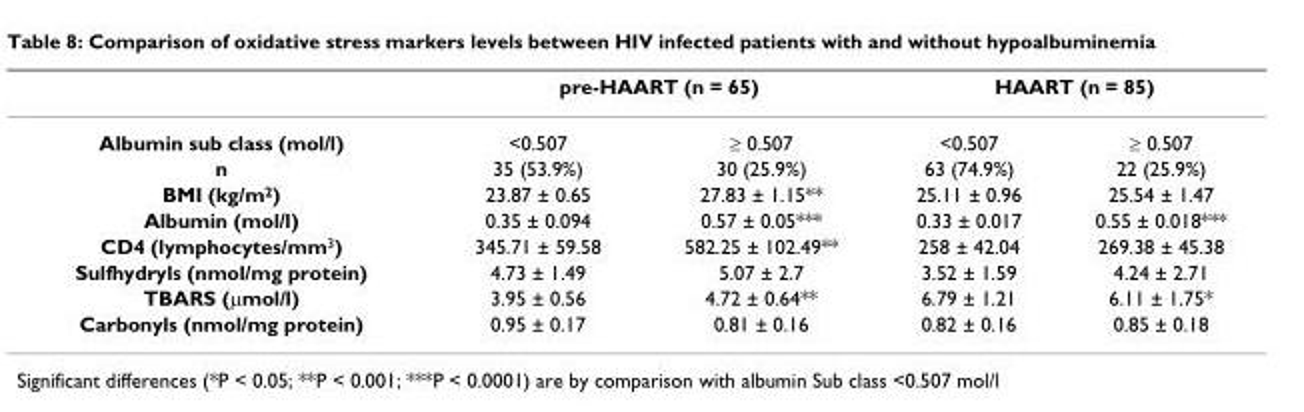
<table><thead><tr><td rowspan="2">Albumin sub class (mol/l)</td><td colspan="2">pre-HAART (n = 65)</td><td colspan="2">HAART (n = 85)</td></tr><tr><td>&lt;0.507</td><td>≥ 0.507</td><td>&lt;0.507</td><td>≥ 0.507</td></tr></thead><tbody><tr><td>n</td><td>35 (53.9%)</td><td>30 (25.9%)</td><td>63 (74.9%)</td><td>22 (25.9%)</td></tr><tr><td>BMI (kg/m<sup>2</sup>)</td><td>23.87 ± 0.65</td><td>27.83 ± 1.15**</td><td>25.11 ± 0.96</td><td>25.54 ± 1.47</td></tr><tr><td>Albumin (mol/l)</td><td>0.35 ± 0.094</td><td>0.57 ± 0.05***</td><td>0.33 ± 0.017</td><td>0.55 ± 0.018***</td></tr><tr><td>CD4 (lymphocytes/mm<sup>3</sup>)</td><td>345.71 ± 59.58</td><td>582.25 ± 102.49**</td><td>258 ± 42.04</td><td>269.38 ± 45.38</td></tr><tr><td>Sulfhydryls (nmol/mg protein)</td><td>4.73 ± 1.49</td><td>5.07 ± 2.7</td><td>3.52 ± 1.59</td><td>4.24 ± 2.71</td></tr><tr><td>TBARS (μmol/l)</td><td>3.95 ± 0.56</td><td>4.72 ± 0.64**</td><td>6.79 ± 1.21</td><td>6.11 ± 1.75*</td></tr><tr><td>Carbonyls (nmol/mg protein)</td><td>0.95 ± 0.17</td><td>0.81 ± 0.16</td><td>0.82 ± 0.16</td><td>0.85 ± 0.18</td></tr></tbody></table>